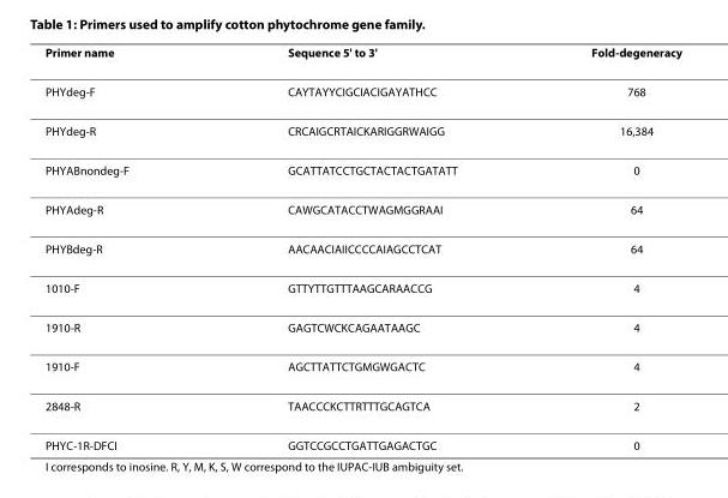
<table><thead><tr><td>Primer name</td><td>Sequence 5&#x27; to 3&#x27;</td><td>Fold-degeneracy</td></tr></thead><tbody><tr><td>PHYdeg-F</td><td>CAYTAYYCIGCIACIGAYATHCC</td><td>768</td></tr><tr><td>PHYdeg-R</td><td>CRCAIGCRTAICKARIGGRWAIGG</td><td>16,384</td></tr><tr><td>PHYABnondeg-F</td><td>GCATTATCCTGCTACTACTGATATT</td><td>0</td></tr><tr><td>PHYAdeg-R</td><td>CAWGCATACCTWAGMGGRAAI</td><td>64</td></tr><tr><td>PHYBdeg-R</td><td>AACAACIAIICCCCAIAGCCTCAT</td><td>64</td></tr><tr><td>1010-F</td><td>GTTYTTGTTTAAGCARAACCG</td><td>4</td></tr><tr><td>1910-R</td><td>GAGTCWCKCAGAATAAGC</td><td>4</td></tr><tr><td>1910-F</td><td>AGCTTATTCTGMGWGACTC</td><td>4</td></tr><tr><td>2848-R</td><td>TAACCCKCTTRTTTGCAGTCA</td><td>2</td></tr><tr><td>PHYC-1R-DFCI</td><td>GGTCCGCCTGATTGAGACTGC</td><td>0</td></tr></tbody></table>